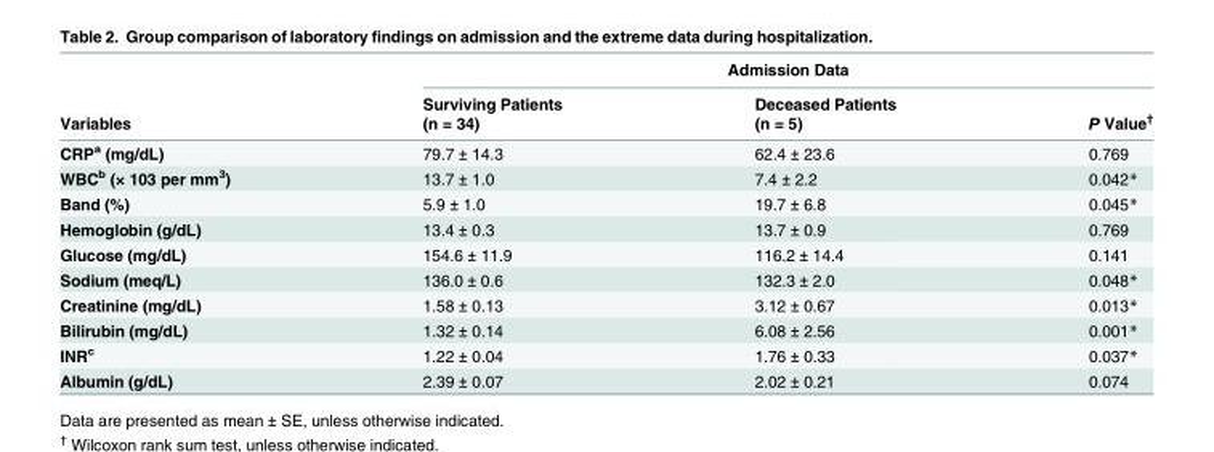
<table><thead><tr><td rowspan="3">Variables</td><td colspan="3">Admission Data</td></tr><tr><td rowspan="2">Surviving Patients (n = 34)</td><td rowspan="2">Deceased Patients (n = 5)</td><td rowspan="2">P Value<sup>†</sup></td></tr><tr></tr></thead><tbody><tr><td>CRP<sup>a</sup> (mg/dL)</td><td>79.7 ± 14.3</td><td>62.4 ± 23.6</td><td>0.769</td></tr><tr><td>WBC<sup>b</sup> (× 103 per mm<sup>3</sup>)</td><td>13.7 ± 1.0</td><td>7.4 ± 2.2</td><td>0.042*</td></tr><tr><td>Band (%)</td><td>5.9 ± 1.0</td><td>19.7 ± 6.8</td><td>0.045*</td></tr><tr><td>Hemoglobin (g/dL)</td><td>13.4 ± 0.3</td><td>13.7 ± 0.9</td><td>0.769</td></tr><tr><td>Glucose (mg/dL)</td><td>154.6 ± 11.9</td><td>116.2 ± 14.4</td><td>0.141</td></tr><tr><td>Sodium (meq/L)</td><td>136.0 ± 0.6</td><td>132.3 ± 2.0</td><td>0.048*</td></tr><tr><td>Creatinine (mg/dL)</td><td>1.58 ± 0.13</td><td>3.12 ± 0.67</td><td>0.013*</td></tr><tr><td>Bilirubin (mg/dL)</td><td>1.32 ± 0.14</td><td>6.08 ± 2.56</td><td>0.001*</td></tr><tr><td>INR<sup>c</sup></td><td>1.22 ± 0.04</td><td>1.76 ± 0.33</td><td>0.037*</td></tr><tr><td>Albumin (g/dL)</td><td>2.39 ± 0.07</td><td>2.02 ± 0.21</td><td>0.074</td></tr></tbody></table>